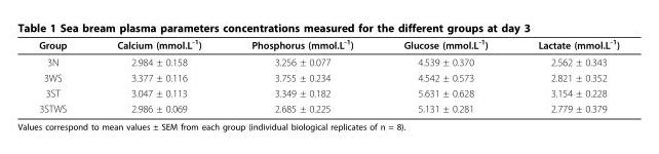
<table><thead><tr><td>Group</td><td>Calcium (mmol.L<sup>-1</sup>)</td><td>Phosphorus (mmol.L<sup>-1</sup>)</td><td>Glucose (mmol.L<sup>-1</sup>)</td><td>Lactate (mmol.L<sup>-1</sup>)</td></tr></thead><tbody><tr><td>3N</td><td>2.984 ± 0.158</td><td>3.256 ± 0.077</td><td>4.539 ± 0.370</td><td>2.562 ± 0.343</td></tr><tr><td>3WS</td><td>3.377 ± 0.116</td><td>3.755 ± 0.234</td><td>4.542 ± 0.573</td><td>2.821 ± 0.352</td></tr><tr><td>3ST</td><td>3.047 ± 0.113</td><td>3.349 ± 0.182</td><td>5.631 ± 0.628</td><td>3.154 ± 0.228</td></tr><tr><td>3STWS</td><td>2.986 ± 0.069</td><td>2.685 ± 0.225</td><td>5.131 ± 0.281</td><td>2.779 ± 0.379</td></tr></tbody></table>